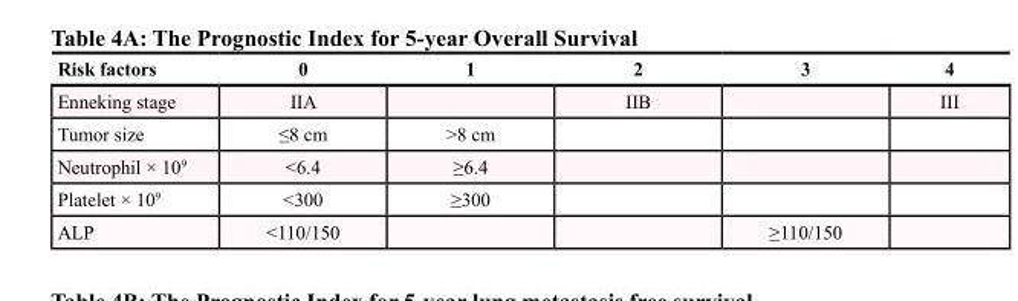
<table><thead><tr><td>Risk factors</td><td>0</td><td>1</td><td>2</td><td>3</td><td>4</td></tr></thead><tbody><tr><td>Enneking stage</td><td>IIA</td><td></td><td>IIB</td><td></td><td>III</td></tr><tr><td>Tumor size</td><td>≤8 cm</td><td>&gt;8 cm</td><td></td><td></td><td></td></tr><tr><td>Neutrophil × 10<sup>9</sup></td><td>&lt;6.4</td><td>≥6.4</td><td></td><td></td><td></td></tr><tr><td>Platelet × 10<sup>9</sup></td><td>&lt;300</td><td>≥300</td><td></td><td></td><td></td></tr><tr><td>ALP</td><td>&lt;110/150</td><td></td><td></td><td>≥110/150</td><td></td></tr></tbody></table>